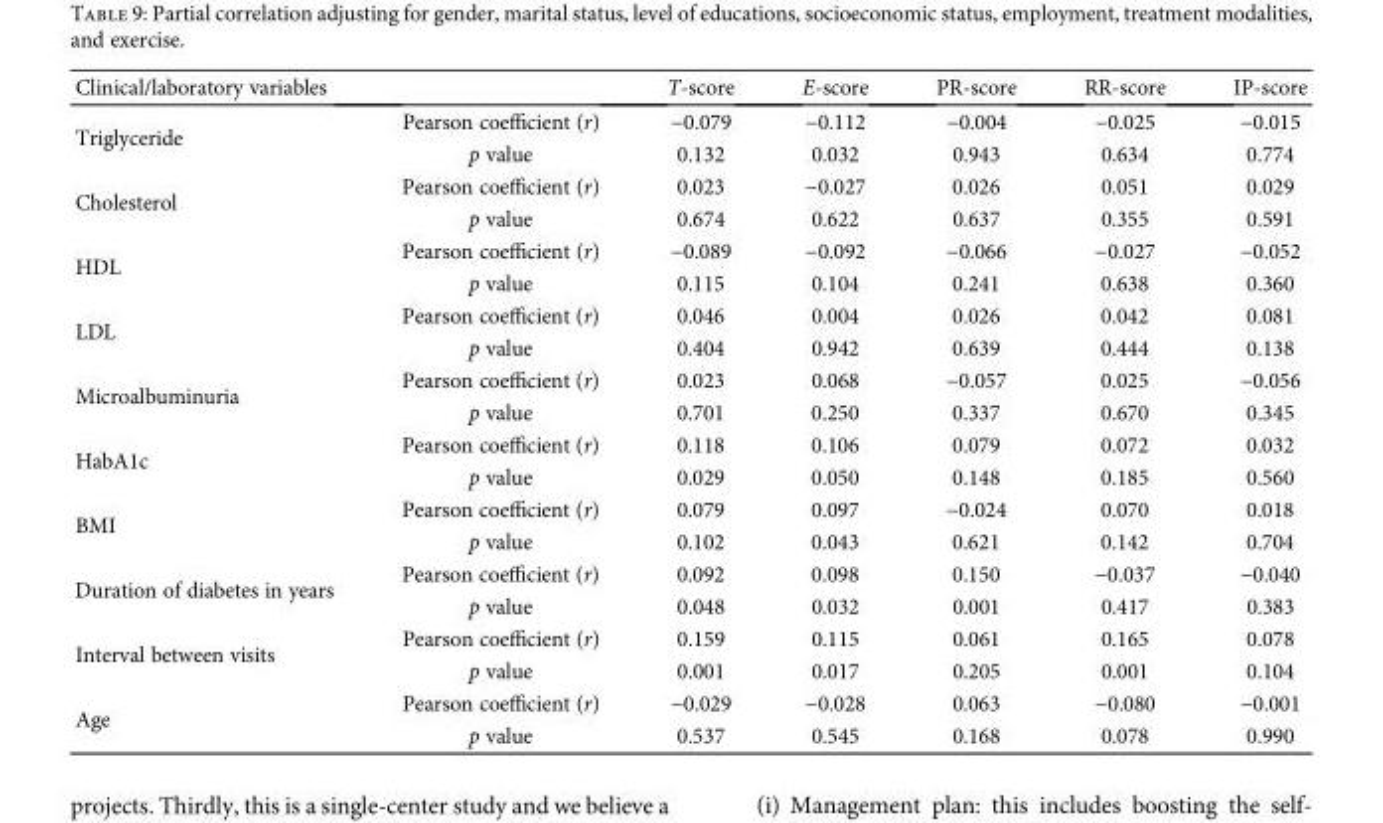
<table><thead><tr><td>Clinical/laboratory variables</td><td></td><td>T-score</td><td>E-score</td><td>PR-score</td><td>RR-score</td><td>IP-score</td></tr></thead><tbody><tr><td rowspan="2">Triglyceride</td><td>Pearson coefficient (r)</td><td>−0.079</td><td>−0.112</td><td>−0.004</td><td>−0.025</td><td>−0.015</td></tr><tr><td>p value</td><td>0.132</td><td>0.032</td><td>0.943</td><td>0.634</td><td>0.774</td></tr><tr><td rowspan="2">Cholesterol</td><td>Pearson coefficient (r)</td><td>0.023</td><td>−0.027</td><td>0.026</td><td>0.051</td><td>0.029</td></tr><tr><td>p value</td><td>0.674</td><td>0.622</td><td>0.637</td><td>0.355</td><td>0.591</td></tr><tr><td rowspan="2">HDL</td><td>Pearson coefficient (r)</td><td>−0.089</td><td>−0.092</td><td>−0.066</td><td>−0.027</td><td>−0.052</td></tr><tr><td>p value</td><td>0.115</td><td>0.104</td><td>0.241</td><td>0.638</td><td>0.360</td></tr><tr><td rowspan="2">LDL</td><td>Pearson coefficient (r)</td><td>0.046</td><td>0.004</td><td>0.026</td><td>0.042</td><td>0.081</td></tr><tr><td>p value</td><td>0.404</td><td>0.942</td><td>0.639</td><td>0.444</td><td>0.138</td></tr><tr><td rowspan="2">Microalbuminuria</td><td>Pearson coefficient (r)</td><td>0.023</td><td>0.068</td><td>−0.057</td><td>0.025</td><td>−0.056</td></tr><tr><td>p value</td><td>0.701</td><td>0.250</td><td>0.337</td><td>0.670</td><td>0.345</td></tr><tr><td rowspan="2">HabA1c</td><td>Pearson coefficient (r)</td><td>0.118</td><td>0.106</td><td>0.079</td><td>0.072</td><td>0.032</td></tr><tr><td>p value</td><td>0.029</td><td>0.050</td><td>0.148</td><td>0.185</td><td>0.560</td></tr><tr><td rowspan="2">BMI</td><td>Pearson coefficient (r)</td><td>0.079</td><td>0.097</td><td>−0.024</td><td>0.070</td><td>0.018</td></tr><tr><td>p value</td><td>0.102</td><td>0.043</td><td>0.621</td><td>0.142</td><td>0.704</td></tr><tr><td rowspan="2">Duration of diabetes in years</td><td>Pearson coefficient (r)</td><td>0.092</td><td>0.098</td><td>0.150</td><td>−0.037</td><td>−0.040</td></tr><tr><td>p value</td><td>0.048</td><td>0.032</td><td>0.001</td><td>0.417</td><td>0.383</td></tr><tr><td rowspan="2">Interval between visits</td><td>Pearson coefficient (r)</td><td>0.159</td><td>0.115</td><td>0.061</td><td>0.165</td><td>0.078</td></tr><tr><td>p value</td><td>0.001</td><td>0.017</td><td>0.205</td><td>0.001</td><td>0.104</td></tr><tr><td rowspan="2">Age</td><td>Pearson coefficient (r)</td><td>−0.029</td><td>−0.028</td><td>0.063</td><td>−0.080</td><td>−0.001</td></tr><tr><td>p value</td><td>0.537</td><td>0.545</td><td>0.168</td><td>0.078</td><td>0.990</td></tr></tbody></table>